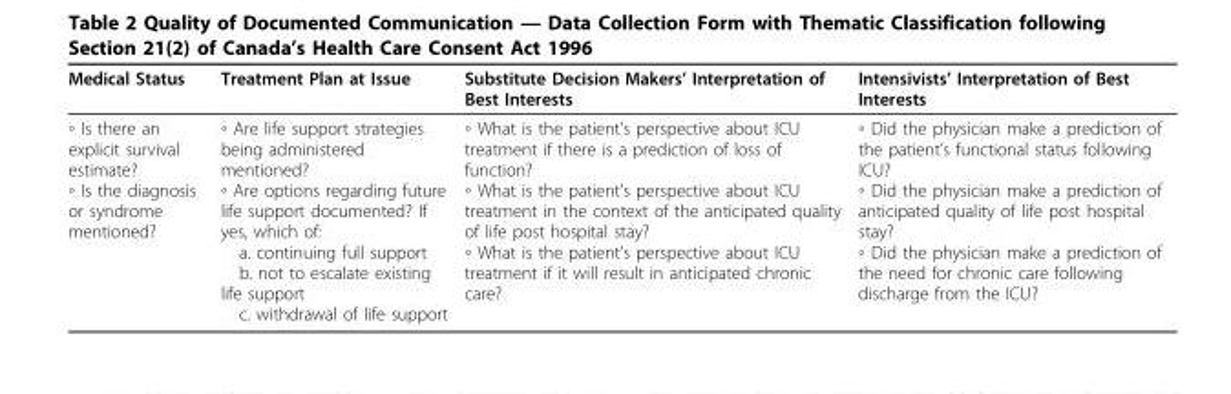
<table><thead><tr><td>Medical Status</td><td>Treatment Plan at Issue</td><td>Substitute Decision Makers’ Interpretation of Best Interests</td><td>Intensivists’ Interpretation of Best Interests</td></tr></thead><tbody><tr><td>◦ Is there an explicit survival estimate? ◦ Is the diagnosis or syndrome mentioned?</td><td>◦ Are life support strategies being administered mentioned? ◦ Are options regarding future life support documented? If yes, which of: a. continuing full support b. not to escalate existing life support c. withdrawal of life support</td><td>◦ What is the patient’s perspective about ICU treatment if there is a prediction of loss of function? ◦ What is the patient’s perspective about ICU treatment in the context of the anticipated quality of life post hospital stay? ◦ What is the patient’s perspective about ICU treatment if it will result in anticipated chronic care?</td><td>◦ Did the physician make a prediction of the patient’s functional status following ICU? ◦ Did the physician make a prediction of anticipated quality of life post hospital stay? ◦ Did the physician make a prediction of the need for chronic care following discharge from the ICU?</td></tr></tbody></table>